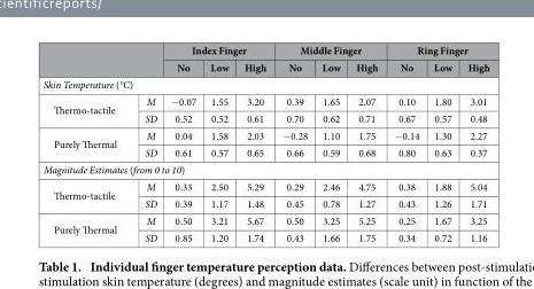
<table><thead><tr><td rowspan="2"></td><td rowspan="2"></td><td colspan="3">Index Finger</td><td colspan="3">Middle Finger</td><td colspan="3">Ring Finger</td></tr><tr><td>No</td><td>Low</td><td>High</td><td>No</td><td>Low</td><td>High</td><td>No</td><td>Low</td><td>High</td></tr></thead><tbody><tr><td colspan="11">Skin Temperature (°C)</td></tr><tr><td rowspan="2">Thermo-tactile</td><td>M</td><td>− 0.07</td><td>1.55</td><td>3.20</td><td>0.39</td><td>1.65</td><td>2.07</td><td>0.10</td><td>1.80</td><td>3.01</td></tr><tr><td>SD</td><td>0.52</td><td>0.52</td><td>0.61</td><td>0.70</td><td>0.62</td><td>0.71</td><td>0.67</td><td>0.57</td><td>0.48</td></tr><tr><td rowspan="2">Purely Thermal</td><td>M</td><td>0.04</td><td>1.58</td><td>2.03</td><td>− 0.28</td><td>1.10</td><td>1.75</td><td>− 0.14</td><td>1.30</td><td>2.27</td></tr><tr><td>SD</td><td>0.61</td><td>0.57</td><td>0.65</td><td>0.66</td><td>0.59</td><td>0.68</td><td>0.80</td><td>0.63</td><td>0.37</td></tr><tr><td colspan="11">Magnitude Estimates (from 0 to 10)</td></tr><tr><td rowspan="2">Thermo-tactile</td><td>M</td><td>0.33</td><td>2.50</td><td>5.29</td><td>0.29</td><td>2.46</td><td>4.75</td><td>0.38</td><td>1.88</td><td>5.04</td></tr><tr><td>SD</td><td>0.39</td><td>1.17</td><td>1.48</td><td>0.45</td><td>0.78</td><td>1.27</td><td>0.43</td><td>1.26</td><td>1.71</td></tr><tr><td rowspan="2">Purely Thermal</td><td>M</td><td>0.50</td><td>3.21</td><td>5.67</td><td>0.50</td><td>3.25</td><td>5.25</td><td>0.25</td><td>1.67</td><td>3.25</td></tr><tr><td>SD</td><td>0.85</td><td>1.20</td><td>1.74</td><td>0.43</td><td>1.66</td><td>1.75</td><td>0.34</td><td>0.72</td><td>1.16</td></tr></tbody></table>